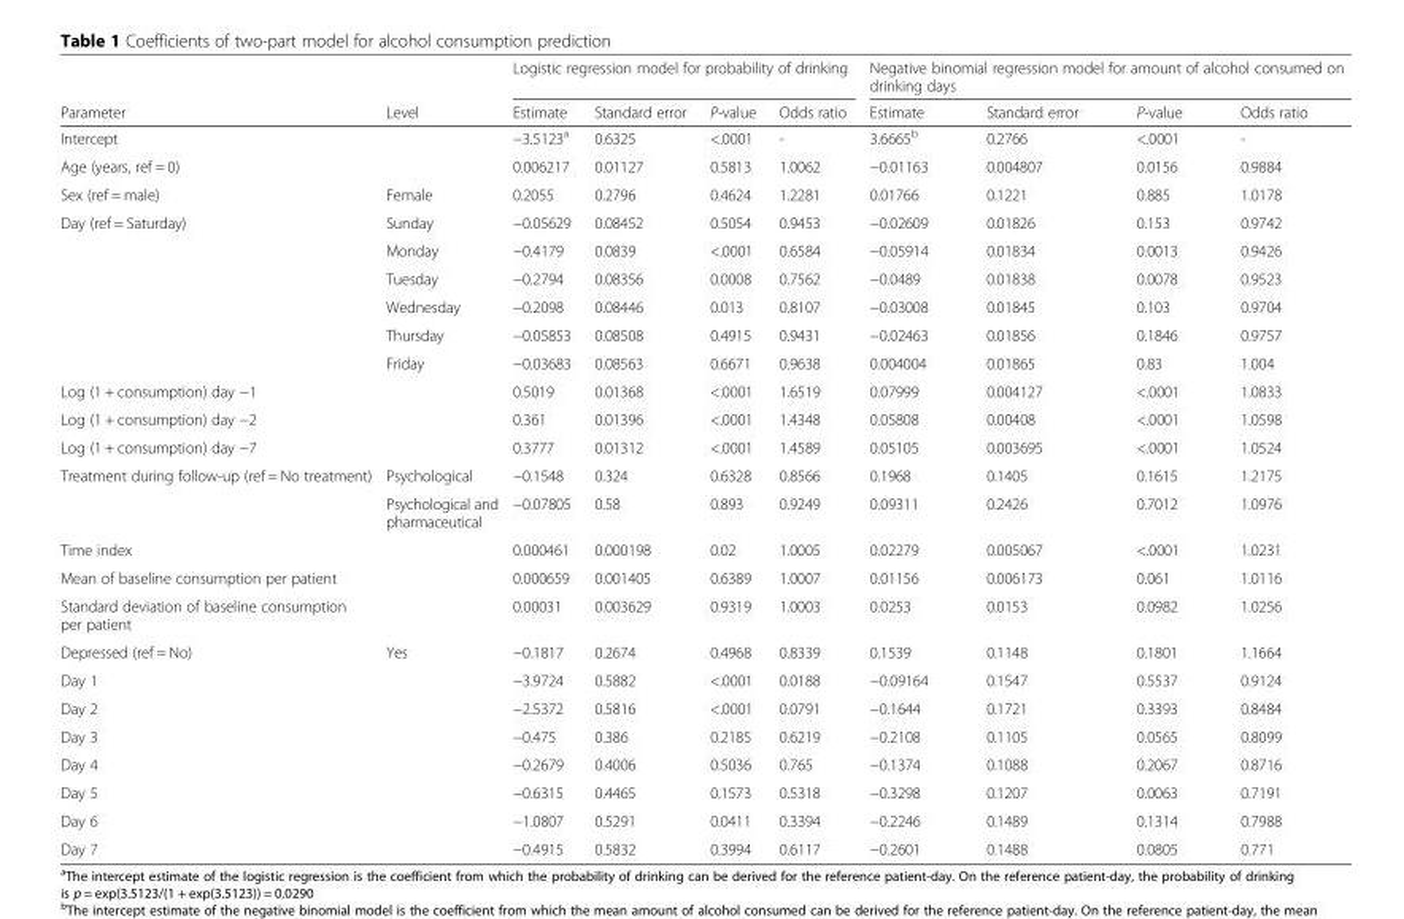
<table><thead><tr><td rowspan="2">Parameter</td><td rowspan="2">Level</td><td colspan="4">Logistic regression model for probability of drinking</td><td colspan="4">Negative binomial regression model for amount of alcohol consumed on drinking days</td></tr><tr><td>Estimate</td><td>Standard error</td><td>P-value</td><td>Odds ratio</td><td>Estimate</td><td>Standard error</td><td>P-value</td><td>Odds ratio</td></tr></thead><tbody><tr><td>Intercept</td><td></td><td>−3.5123<sup>a</sup></td><td>0.6325</td><td>&lt;.0001</td><td>-</td><td>3.6665<sup>b</sup></td><td>0.2766</td><td>&lt;.0001</td><td>-</td></tr><tr><td>Age (years, ref = 0)</td><td></td><td>0.006217</td><td>0.01127</td><td>0.5813</td><td>1.0062</td><td>−0.01163</td><td>0.004807</td><td>0.0156</td><td>0.9884</td></tr><tr><td>Sex (ref = male)</td><td>Female</td><td>0.2055</td><td>0.2796</td><td>0.4624</td><td>1.2281</td><td>0.01766</td><td>0.1221</td><td>0.885</td><td>1.0178</td></tr><tr><td rowspan="6">Day (ref = Saturday)</td><td>Sunday</td><td>−0.05629</td><td>0.08452</td><td>0.5054</td><td>0.9453</td><td>−0.02609</td><td>0.01826</td><td>0.153</td><td>0.9742</td></tr><tr><td>Monday</td><td>−0.4179</td><td>0.0839</td><td>&lt;.0001</td><td>0.6584</td><td>−0.05914</td><td>0.01834</td><td>0.0013</td><td>0.9426</td></tr><tr><td>Tuesday</td><td>−0.2794</td><td>0.08356</td><td>0.0008</td><td>0.7562</td><td>−0.0489</td><td>0.01838</td><td>0.0078</td><td>0.9523</td></tr><tr><td>Wednesday</td><td>−0.2098</td><td>0.08446</td><td>0.013</td><td>0.8107</td><td>−0.03008</td><td>0.01845</td><td>0.103</td><td>0.9704</td></tr><tr><td>Thursday</td><td>−0.05853</td><td>0.08508</td><td>0.4915</td><td>0.9431</td><td>−0.02463</td><td>0.01856</td><td>0.1846</td><td>0.9757</td></tr><tr><td>Friday</td><td>−0.03683</td><td>0.08563</td><td>0.6671</td><td>0.9638</td><td>0.004004</td><td>0.01865</td><td>0.83</td><td>1.004</td></tr><tr><td>Log (1 + consumption) day −1</td><td></td><td>0.5019</td><td>0.01368</td><td>&lt;.0001</td><td>1.6519</td><td>0.07999</td><td>0.004127</td><td>&lt;.0001</td><td>1.0833</td></tr><tr><td>Log (1 + consumption) day −2</td><td></td><td>0.361</td><td>0.01396</td><td>&lt;.0001</td><td>1.4348</td><td>0.05808</td><td>0.00408</td><td>&lt;.0001</td><td>1.0598</td></tr><tr><td>Log (1 + consumption) day −7</td><td></td><td>0.3777</td><td>0.01312</td><td>&lt;.0001</td><td>1.4589</td><td>0.05105</td><td>0.003695</td><td>&lt;.0001</td><td>1.0524</td></tr><tr><td rowspan="2">Treatment during follow-up (ref = No treatment)</td><td>Psychological</td><td>−0.1548</td><td>0.324</td><td>0.6328</td><td>0.8566</td><td>0.1968</td><td>0.1405</td><td>0.1615</td><td>1.2175</td></tr><tr><td>Psychological and pharmaceutical</td><td>−0.07805</td><td>0.58</td><td>0.893</td><td>0.9249</td><td>0.09311</td><td>0.2426</td><td>0.7012</td><td>1.0976</td></tr><tr><td>Time index</td><td></td><td>0.000461</td><td>0.000198</td><td>0.02</td><td>1.0005</td><td>0.02279</td><td>0.005067</td><td>&lt;.0001</td><td>1.0231</td></tr><tr><td>Mean of baseline consumption per patient</td><td></td><td>0.000659</td><td>0.001405</td><td>0.6389</td><td>1.0007</td><td>0.01156</td><td>0.006173</td><td>0.061</td><td>1.0116</td></tr><tr><td>Standard deviation of baseline consumption per patient</td><td></td><td>0.00031</td><td>0.003629</td><td>0.9319</td><td>1.0003</td><td>0.0253</td><td>0.0153</td><td>0.0982</td><td>1.0256</td></tr><tr><td>Depressed (ref = No)</td><td>Yes</td><td>−0.1817</td><td>0.2674</td><td>0.4968</td><td>0.8339</td><td>0.1539</td><td>0.1148</td><td>0.1801</td><td>1.1664</td></tr><tr><td>Day 1</td><td></td><td>−3.9724</td><td>0.5882</td><td>&lt;.0001</td><td>0.0188</td><td>−0.09164</td><td>0.1547</td><td>0.5537</td><td>0.9124</td></tr><tr><td>Day 2</td><td></td><td>−2.5372</td><td>0.5816</td><td>&lt;.0001</td><td>0.0791</td><td>−0.1644</td><td>0.1721</td><td>0.3393</td><td>0.8484</td></tr><tr><td>Day 3</td><td></td><td>−0.475</td><td>0.386</td><td>0.2185</td><td>0.6219</td><td>−0.2108</td><td>0.1105</td><td>0.0565</td><td>0.8099</td></tr><tr><td>Day 4</td><td></td><td>−0.2679</td><td>0.4006</td><td>0.5036</td><td>0.765</td><td>−0.1374</td><td>0.1088</td><td>0.2067</td><td>0.8716</td></tr><tr><td>Day 5</td><td></td><td>−0.6315</td><td>0.4465</td><td>0.1573</td><td>0.5318</td><td>−0.3298</td><td>0.1207</td><td>0.0063</td><td>0.7191</td></tr><tr><td>Day 6</td><td></td><td>−1.0807</td><td>0.5291</td><td>0.0411</td><td>0.3394</td><td>−0.2246</td><td>0.1489</td><td>0.1314</td><td>0.7988</td></tr><tr><td>Day 7</td><td></td><td>−0.4915</td><td>0.5832</td><td>0.3994</td><td>0.6117</td><td>−0.2601</td><td>0.1488</td><td>0.0805</td><td>0.771</td></tr></tbody></table>